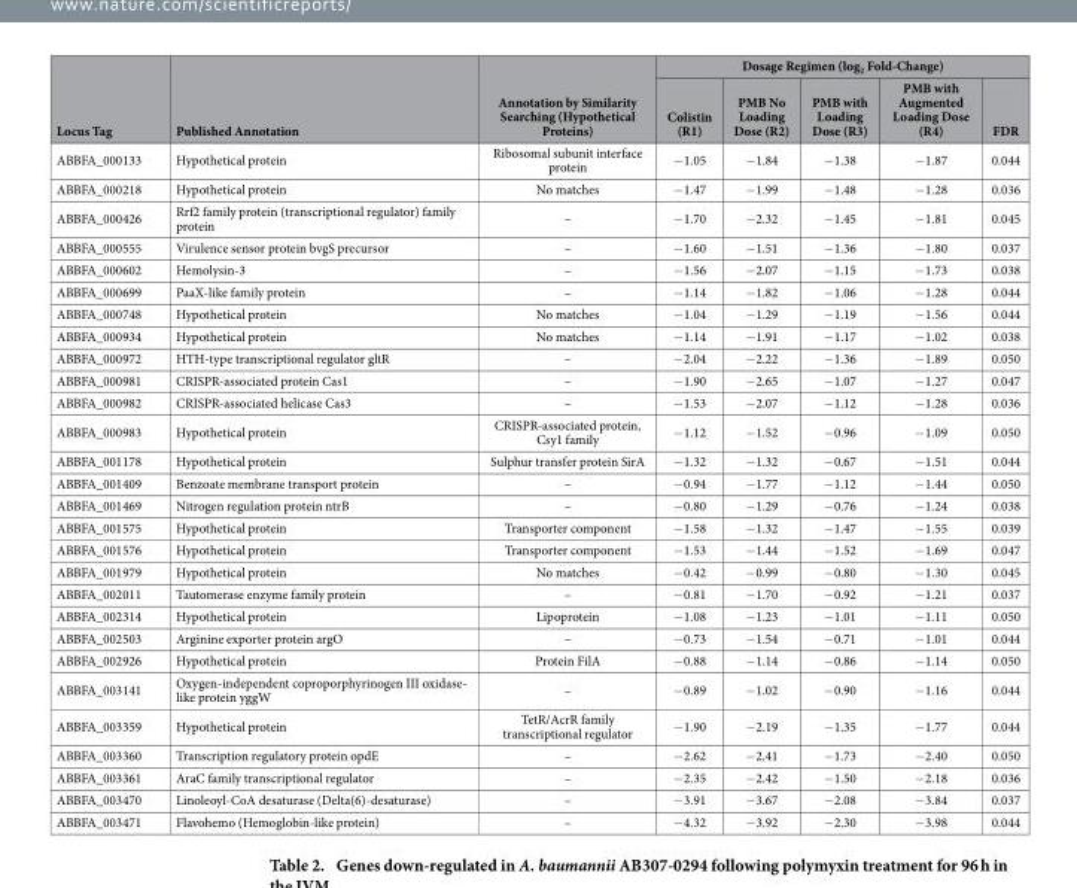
<table><thead><tr><td rowspan="2">Locus Tag</td><td rowspan="2">Published Annotation</td><td rowspan="2">Annotation by Similarity Searching (Hypothetical Proteins)</td><td colspan="5">Dosage Regimen (log<sub>2</sub> Fold-Change)</td></tr><tr><td>Colistin (R1)</td><td>PMB No Loading Dose (R2)</td><td>PMB with Loading Dose (R3)</td><td>PMB with Augmented Loading Dose (R4)</td><td>FDR</td></tr></thead><tbody><tr><td>ABBFA_000133</td><td>Hypothetical protein</td><td>Ribosomal subunit interface protein</td><td>− 1.05</td><td>− 1.84</td><td>− 1.38</td><td>− 1.87</td><td>0.044</td></tr><tr><td>ABBFA_000218</td><td>Hypothetical protein</td><td>No matches</td><td>− 1.47</td><td>− 1.99</td><td>− 1.48</td><td>− 1.28</td><td>0.036</td></tr><tr><td>ABBFA_000426</td><td>Rrf2 family protein (transcriptional regulator) family protein</td><td>–</td><td>− 1.70</td><td>− 2.32</td><td>− 1.45</td><td>− 1.81</td><td>0.045</td></tr><tr><td>ABBFA_000555</td><td>Virulence sensor protein bvgS precursor</td><td>–</td><td>− 1.60</td><td>− 1.51</td><td>− 1.36</td><td>− 1.80</td><td>0.037</td></tr><tr><td>ABBFA_000602</td><td>Hemolysin-3</td><td>–</td><td>− 1.56</td><td>− 2.07</td><td>− 1.15</td><td>− 1.73</td><td>0.038</td></tr><tr><td>ABBFA_000699</td><td>PaaX-like family protein</td><td>–</td><td>− 1.14</td><td>− 1.82</td><td>− 1.06</td><td>− 1.28</td><td>0.044</td></tr><tr><td>ABBFA_000748</td><td>Hypothetical protein</td><td>No matches</td><td>− 1.04</td><td>− 1.29</td><td>− 1.19</td><td>− 1.56</td><td>0.044</td></tr><tr><td>ABBFA_000934</td><td>Hypothetical protein</td><td>No matches</td><td>− 1.14</td><td>− 1.91</td><td>− 1.17</td><td>− 1.02</td><td>0.038</td></tr><tr><td>ABBFA_000972</td><td>HTH-type transcriptional regulator gltR</td><td>–</td><td>− 2.04</td><td>− 2.22</td><td>− 1.36</td><td>− 1.89</td><td>0.050</td></tr><tr><td>ABBFA_000981</td><td>CRISPR-associated protein Cas1</td><td>–</td><td>− 1.90</td><td>− 2.65</td><td>− 1.07</td><td>− 1.27</td><td>0.047</td></tr><tr><td>ABBFA_000982</td><td>CRISPR-associated helicase Cas3</td><td>–</td><td>− 1.53</td><td>− 2.07</td><td>− 1.12</td><td>− 1.28</td><td>0.036</td></tr><tr><td>ABBFA_000983</td><td>Hypothetical protein</td><td>CRISPR-associated protein, Csy1 family</td><td>− 1.12</td><td>− 1.52</td><td>− 0.96</td><td>− 1.09</td><td>0.050</td></tr><tr><td>ABBFA_001178</td><td>Hypothetical protein</td><td>Sulphur transfer protein SirA</td><td>− 1.32</td><td>− 1.32</td><td>− 0.67</td><td>− 1.51</td><td>0.044</td></tr><tr><td>ABBFA_001409</td><td>Benzoate membrane transport protein</td><td>–</td><td>− 0.94</td><td>− 1.77</td><td>− 1.12</td><td>− 1.44</td><td>0.050</td></tr><tr><td>ABBFA_001469</td><td>Nitrogen regulation protein ntrB</td><td>–</td><td>− 0.80</td><td>− 1.29</td><td>− 0.76</td><td>− 1.24</td><td>0.038</td></tr><tr><td>ABBFA_001575</td><td>Hypothetical protein</td><td>Transporter component</td><td>− 1.58</td><td>− 1.32</td><td>− 1.47</td><td>− 1.55</td><td>0.039</td></tr><tr><td>ABBFA_001576</td><td>Hypothetical protein</td><td>Transporter component</td><td>− 1.53</td><td>− 1.44</td><td>− 1.52</td><td>− 1.69</td><td>0.047</td></tr><tr><td>ABBFA_001979</td><td>Hypothetical protein</td><td>No matches</td><td>− 0.42</td><td>− 0.99</td><td>− 0.80</td><td>− 1.30</td><td>0.045</td></tr><tr><td>ABBFA_002011</td><td>Tautomerase enzyme family protein</td><td>–</td><td>− 0.81</td><td>− 1.70</td><td>− 0.92</td><td>− 1.21</td><td>0.037</td></tr><tr><td>ABBFA_002314</td><td>Hypothetical protein</td><td>Lipoprotein</td><td>− 1.08</td><td>− 1.23</td><td>− 1.01</td><td>− 1.11</td><td>0.050</td></tr><tr><td>ABBFA_002503</td><td>Arginine exporter protein argO</td><td>–</td><td>− 0.73</td><td>− 1.54</td><td>− 0.71</td><td>− 1.01</td><td>0.044</td></tr><tr><td>ABBFA_002926</td><td>Hypothetical protein</td><td>Protein FilA</td><td>− 0.88</td><td>− 1.14</td><td>− 0.86</td><td>− 1.14</td><td>0.050</td></tr><tr><td>ABBFA_003141</td><td>Oxygen-independent coproporphyrinogen III oxidase- like protein yggW</td><td>–</td><td>− 0.89</td><td>− 1.02</td><td>− 0.90</td><td>− 1.16</td><td>0.044</td></tr><tr><td>ABBFA_003359</td><td>Hypothetical protein</td><td>TetR/AcrR family transcriptional regulator</td><td>− 1.90</td><td>− 2.19</td><td>− 1.35</td><td>− 1.77</td><td>0.044</td></tr><tr><td>ABBFA_003360</td><td>Transcription regulatory protein opdE</td><td>–</td><td>− 2.62</td><td>− 2.41</td><td>− 1.73</td><td>− 2.40</td><td>0.050</td></tr><tr><td>ABBFA_003361</td><td>AraC family transcriptional regulator</td><td>–</td><td>− 2.35</td><td>− 2.42</td><td>− 1.50</td><td>− 2.18</td><td>0.036</td></tr><tr><td>ABBFA_003470</td><td>Linoleoyl-CoA desaturase (Delta(6)-desaturase)</td><td>–</td><td>− 3.91</td><td>− 3.67</td><td>− 2.08</td><td>− 3.84</td><td>0.037</td></tr><tr><td>ABBFA_003471</td><td>Flavohemo (Hemoglobin-like protein)</td><td>–</td><td>− 4.32</td><td>− 3.92</td><td>− 2.30</td><td>− 3.98</td><td>0.044</td></tr></tbody></table>